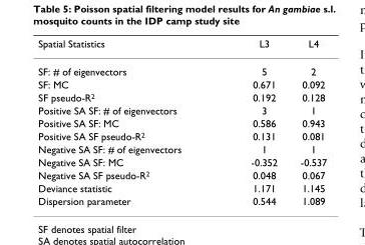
<table><thead><tr><td>Spatial Statistics</td><td>L3</td><td>L4</td></tr></thead><tbody><tr><td>SF: # of eigenvectors</td><td>5</td><td>2</td></tr><tr><td>SF: MC</td><td>0.671</td><td>0.092</td></tr><tr><td>SF pseudo-R<sup>2</sup></td><td>0.192</td><td>0.128</td></tr><tr><td>Positive SA SF: # of eigenvectors</td><td>3</td><td>1</td></tr><tr><td>Positive SA SF: MC</td><td>0.586</td><td>0.943</td></tr><tr><td>Positive SA SF pseudo-R<sup>2</sup></td><td>0.131</td><td>0.081</td></tr><tr><td>Negative SA SF: # of eigenvectors</td><td>1</td><td>1</td></tr><tr><td>Negative SA SF: MC</td><td>-0.352</td><td>-0.537</td></tr><tr><td>Negative SA SF pseudo-R<sup>2</sup></td><td>0.048</td><td>0.067</td></tr><tr><td>Deviance statistic</td><td>1.171</td><td>1.145</td></tr><tr><td>Dispersion parameter</td><td>0.544</td><td>1.089</td></tr></tbody></table>